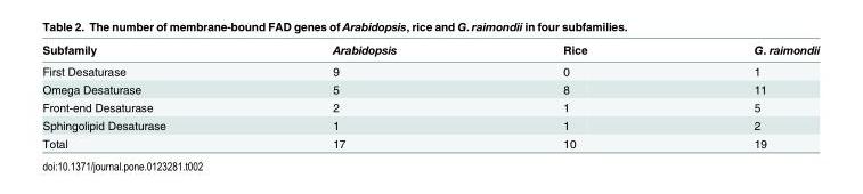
<table><thead><tr><td>Subfamily</td><td>Arabidopsis</td><td>Rice</td><td>G. raimondii</td></tr></thead><tbody><tr><td>First Desaturase</td><td>9</td><td>0</td><td>1</td></tr><tr><td>Omega Desaturase</td><td>5</td><td>8</td><td>11</td></tr><tr><td>Front-end Desaturase</td><td>2</td><td>1</td><td>5</td></tr><tr><td>Sphingolipid Desaturase</td><td>1</td><td>1</td><td>2</td></tr><tr><td>Total</td><td>17</td><td>10</td><td>19</td></tr></tbody></table>